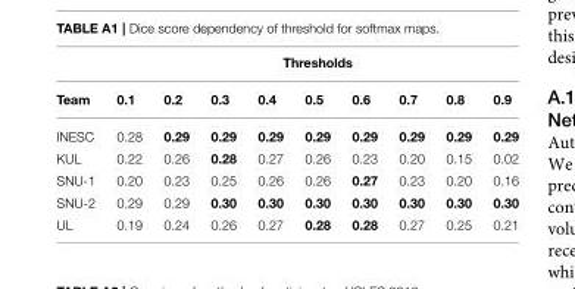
<table><thead><tr><td rowspan="2">Team</td><td colspan="9">Thresholds</td></tr><tr><td>0.1</td><td>0.2</td><td>0.3</td><td>0.4</td><td>0.5</td><td>0.6</td><td>0.7</td><td>0.8</td><td>0.9</td></tr></thead><tbody><tr><td>INESC</td><td>0.28</td><td>0.29</td><td>0.29</td><td>0.29</td><td>0.29</td><td>0.29</td><td>0.29</td><td>0.29</td><td>0.29</td></tr><tr><td>KUL</td><td>0.22</td><td>0.26</td><td>0.28</td><td>0.27</td><td>0.26</td><td>0.23</td><td>0.20</td><td>0.15</td><td>0.02</td></tr><tr><td>SNU-1</td><td>0.20</td><td>0.23</td><td>0.25</td><td>0.26</td><td>0.26</td><td>0.27</td><td>0.23</td><td>0.20</td><td>0.16</td></tr><tr><td>SNU-2</td><td>0.29</td><td>0.29</td><td>0.30</td><td>0.30</td><td>0.30</td><td>0.30</td><td>0.30</td><td>0.30</td><td>0.30</td></tr><tr><td>UL</td><td>0.19</td><td>0.24</td><td>0.26</td><td>0.27</td><td>0.28</td><td>0.28</td><td>0.27</td><td>0.25</td><td>0.21</td></tr></tbody></table>